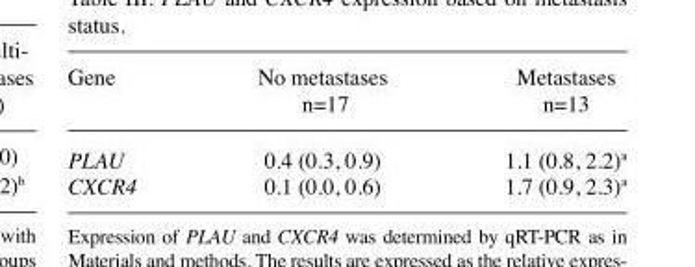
<table><thead><tr><td>Gene</td><td>No metastases n=17</td><td>Metastases n=13</td></tr></thead><tbody><tr><td>PLAU</td><td>0.4 (0.3, 0.9)</td><td>1.1 (0.8, 2.2)<sup>a</sup></td></tr><tr><td>CXCR4</td><td>0.1 (0.0, 0.6)</td><td>1.7 (0.9, 2.3)<sup>a</sup></td></tr></tbody></table>